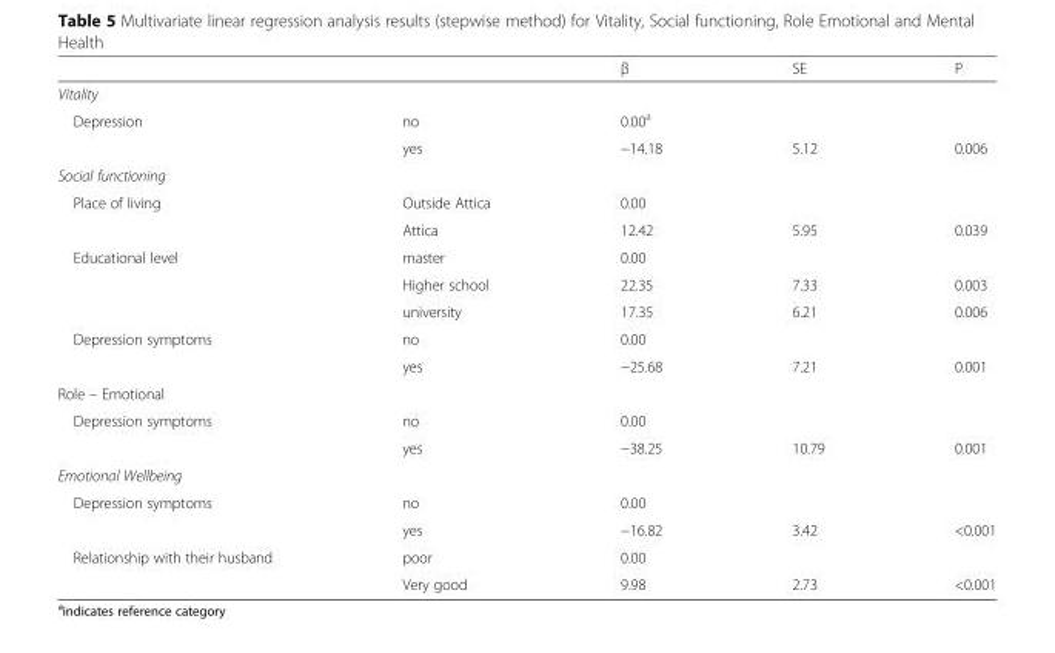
<table><thead><tr><td></td><td></td><td>β</td><td>SE</td><td>P</td></tr></thead><tbody><tr><td colspan="5">Vitality</td></tr><tr><td rowspan="2">Depression</td><td>no</td><td>0.00<sup>a</sup></td><td></td><td></td></tr><tr><td>yes</td><td>−14.18</td><td>5.12</td><td>0.006</td></tr><tr><td colspan="5">Social functioning</td></tr><tr><td rowspan="2">Place of living</td><td>Outside Attica</td><td>0.00</td><td></td><td></td></tr><tr><td>Attica</td><td>12.42</td><td>5.95</td><td>0.039</td></tr><tr><td rowspan="3">Educational level</td><td>master</td><td>0.00</td><td></td><td></td></tr><tr><td>Higher school</td><td>22.35</td><td>7.33</td><td>0.003</td></tr><tr><td>university</td><td>17.35</td><td>6.21</td><td>0.006</td></tr><tr><td rowspan="2">Depression symptoms</td><td>no</td><td>0.00</td><td></td><td></td></tr><tr><td>yes</td><td>−25.68</td><td>7.21</td><td>0.001</td></tr><tr><td colspan="5">Role – Emotional</td></tr><tr><td rowspan="2">Depression symptoms</td><td>no</td><td>0.00</td><td></td><td></td></tr><tr><td>yes</td><td>−38.25</td><td>10.79</td><td>0.001</td></tr><tr><td colspan="5">Emotional Wellbeing</td></tr><tr><td rowspan="2">Depression symptoms</td><td>no</td><td>0.00</td><td></td><td></td></tr><tr><td>yes</td><td>−16.82</td><td>3.42</td><td>&lt;0.001</td></tr><tr><td rowspan="2">Relationship with their husband</td><td>poor</td><td>0.00</td><td></td><td></td></tr><tr><td>Very good</td><td>9.98</td><td>2.73</td><td>&lt;0.001</td></tr></tbody></table>